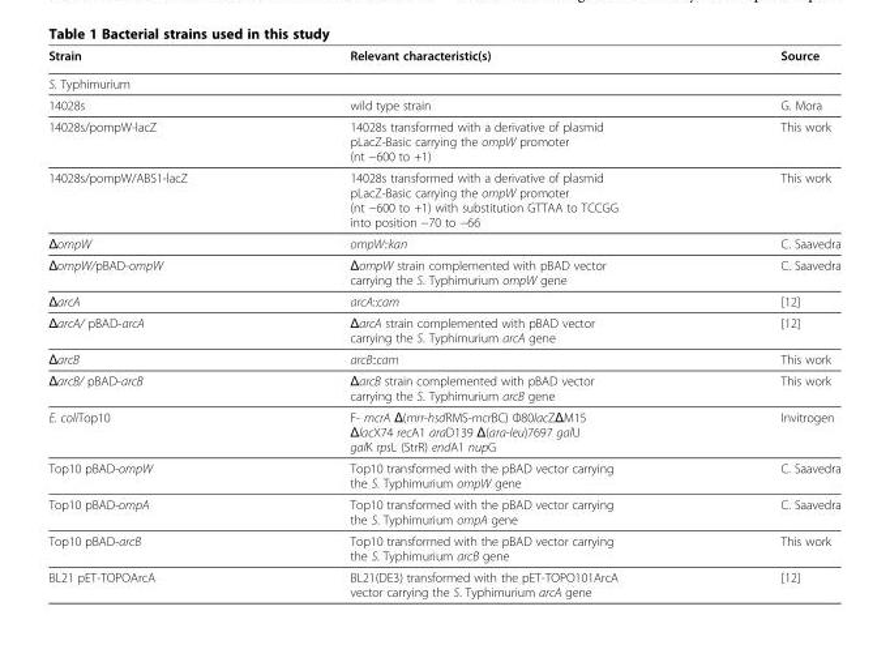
<table><thead><tr><td>Strain</td><td>Relevant characteristic(s)</td><td>Source</td></tr></thead><tbody><tr><td colspan="3">S. Typhimurium</td></tr><tr><td>14028s</td><td>wild type strain</td><td>G. Mora</td></tr><tr><td>14028s/pompW-lacZ</td><td>14028s transformed with a derivative of plasmid pLacZ-Basic carrying the ompW promoter (nt −600 to +1)</td><td>This work</td></tr><tr><td>14028s/pompW/ABS1-lacZ</td><td>14028s transformed with a derivative of plasmid pLacZ-Basic carrying the ompW promoter (nt −600 to +1) with substitution GTTAA to TCCGG into position −70 to −66</td><td>This work</td></tr><tr><td>ΔompW</td><td>ompW::kan</td><td>C. Saavedra</td></tr><tr><td>ΔompW/pBAD-ompW</td><td>ΔompW strain complemented with pBAD vector carrying the S. Typhimurium ompW gene</td><td>C. Saavedra</td></tr><tr><td>ΔarcA</td><td>arcA::cam</td><td>[12]</td></tr><tr><td>ΔarcA/ pBAD-arcA</td><td>ΔarcA strain complemented with pBAD vector carrying the S. Typhimurium arcA gene</td><td>[12]</td></tr><tr><td>ΔarcB</td><td>arcB::cam</td><td>This work</td></tr><tr><td>ΔarcB/ pBAD-arcB</td><td>ΔarcB strain complemented with pBAD vector carrying the S. Typhimurium arcB gene</td><td>This work</td></tr><tr><td>E. coliTop10</td><td>F- mcrA Δ(mrr-hsdRMS-mcrBC) Φ80lacZΔM15 ΔlacΧ74 recA1 araD139 Δ(ara-leu)7697 galU galK rpsL (StrR) endA1 nupG</td><td>Invitrogen</td></tr><tr><td>Top10 pBAD-ompW</td><td>Top10 transformed with the pBAD vector carrying the S. Typhimurium ompW gene</td><td>C. Saavedra</td></tr><tr><td>Top10 pBAD-ompA</td><td>Top10 transformed with the pBAD vector carrying the S. Typhimurium ompA gene</td><td>C. Saavedra</td></tr><tr><td>Top10 pBAD-arcB</td><td>Top10 transformed with the pBAD vector carrying the S. Typhimurium arcB gene</td><td>This work</td></tr><tr><td>BL21 pET-TOPOArcA</td><td>BL21(DE3) transformed with the pET-TOPO101ArcA vector carrying the S. Typhimurium arcA gene</td><td>[12]</td></tr></tbody></table>